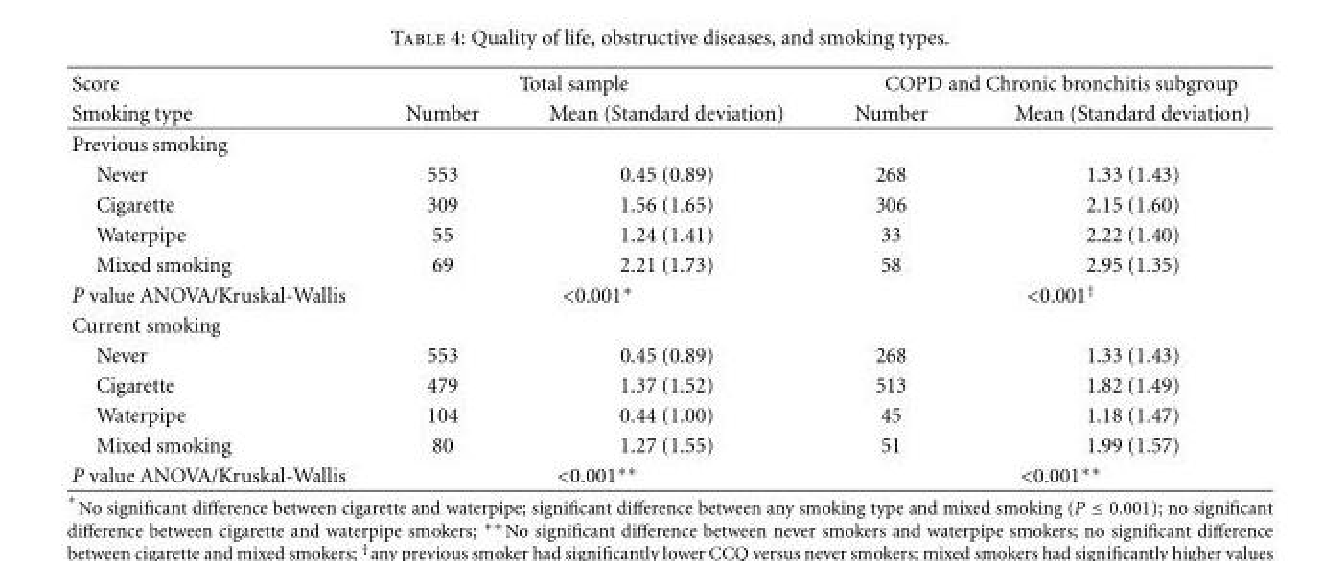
<table><thead><tr><td rowspan="2">Score Smoking type</td><td colspan="2">Total sample</td><td colspan="2">COPD and Chronic bronchitis subgroup</td></tr><tr><td>Number</td><td>Mean (Standard deviation)</td><td>Number</td><td>Mean (Standard deviation)</td></tr></thead><tbody><tr><td colspan="5">Previous smoking</td></tr><tr><td>Never</td><td>553</td><td>0.45 (0.89)</td><td>268</td><td>1.33 (1.43)</td></tr><tr><td>Cigarette</td><td>309</td><td>1.56 (1.65)</td><td>306</td><td>2.15 (1.60)</td></tr><tr><td>Waterpipe</td><td>55</td><td>1.24 (1.41)</td><td>33</td><td>2.22 (1.40)</td></tr><tr><td>Mixed smoking</td><td>69</td><td>2.21 (1.73)</td><td>58</td><td>2.95 (1.35)</td></tr><tr><td>P value ANOVA/Kruskal-Wallis</td><td colspan="2">&lt;0.001∗</td><td colspan="2">&lt;0.001<sup>†</sup></td></tr><tr><td colspan="5">Current smoking</td></tr><tr><td>Never</td><td>553</td><td>0.45 (0.89)</td><td>268</td><td>1.33 (1.43)</td></tr><tr><td>Cigarette</td><td>479</td><td>1.37 (1.52)</td><td>513</td><td>1.82 (1.49)</td></tr><tr><td>Waterpipe</td><td>104</td><td>0.44 (1.00)</td><td>45</td><td>1.18 (1.47)</td></tr><tr><td>Mixed smoking</td><td>80</td><td>1.27 (1.55)</td><td>51</td><td>1.99 (1.57)</td></tr><tr><td>P value ANOVA/Kruskal-Wallis</td><td colspan="2">&lt;0.001∗∗</td><td colspan="2">&lt;0.001∗∗</td></tr></tbody></table>